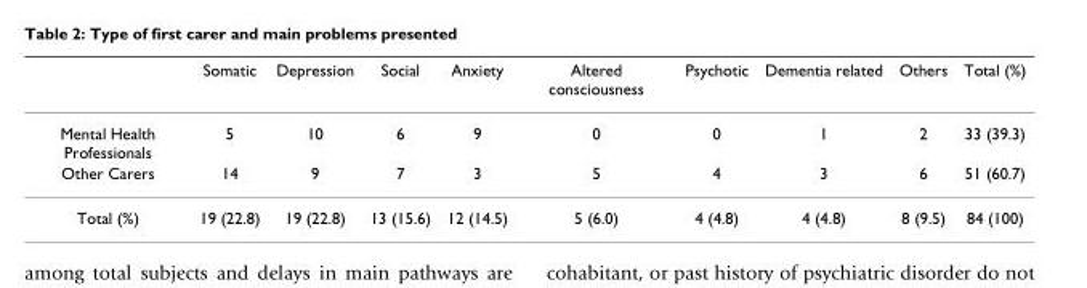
<table><thead><tr><td></td><td>Somatic</td><td>Depression</td><td>Social</td><td>Anxiety</td><td>Altered consciousness</td><td>Psychotic</td><td>Dementia related</td><td>Others</td><td>Total (%)</td></tr></thead><tbody><tr><td>Mental Health Professionals</td><td>5</td><td>10</td><td>6</td><td>9</td><td>0</td><td>0</td><td>1</td><td>2</td><td>33 (39.3)</td></tr><tr><td>Other Carers</td><td>14</td><td>9</td><td>7</td><td>3</td><td>5</td><td>4</td><td>3</td><td>6</td><td>51 (60.7)</td></tr><tr><td>Total (%)</td><td>19 (22.8)</td><td>19 (22.8)</td><td>13 (15.6)</td><td>12 (14.5)</td><td>5 (6.0)</td><td>4 (4.8)</td><td>4 (4.8)</td><td>8 (9.5)</td><td>84 (100)</td></tr></tbody></table>